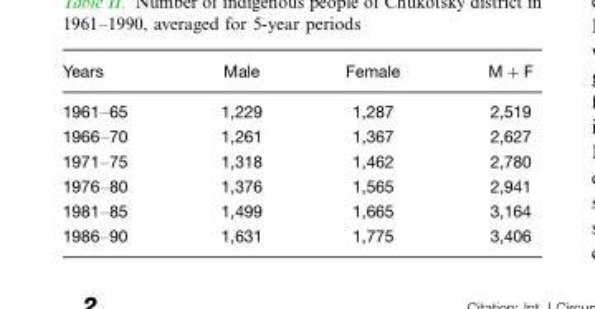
<table><thead><tr><td>Years</td><td>Male</td><td>Female</td><td>M+F</td></tr></thead><tbody><tr><td>1961–65</td><td>1,229</td><td>1,287</td><td>2,519</td></tr><tr><td>1966–70</td><td>1,261</td><td>1,367</td><td>2,627</td></tr><tr><td>1971–75</td><td>1,318</td><td>1,462</td><td>2,780</td></tr><tr><td>1976–80</td><td>1,376</td><td>1,565</td><td>2,941</td></tr><tr><td>1981–85</td><td>1,499</td><td>1,665</td><td>3,164</td></tr><tr><td>1986–90</td><td>1,631</td><td>1,775</td><td>3,406</td></tr></tbody></table>